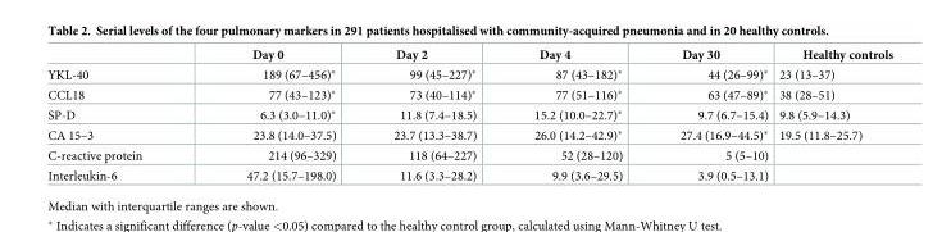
<table><thead><tr><td></td><td>Day 0</td><td>Day 2</td><td>Day 4</td><td>Day 30</td><td>Healthy controls</td></tr></thead><tbody><tr><td>YKL-40</td><td>189 (67–456)*</td><td>99 (45–227)*</td><td>87 (43–182)*</td><td>44 (26–99)*</td><td>23 (13–37)</td></tr><tr><td>CCL18</td><td>77 (43–123)*</td><td>73 (40–114)*</td><td>77 (51–116)*</td><td>63 (47–89)*</td><td>38 (28–51)</td></tr><tr><td>SP-D</td><td>6.3 (3.0–11.0)*</td><td>11.8 (7.4–18.5)</td><td>15.2 (10.0–22.7)*</td><td>9.7 (6.7–15.4)</td><td>9.8 (5.9–14.3)</td></tr><tr><td>CA 15–3</td><td>23.8 (14.0–37.5)</td><td>23.7 (13.3–38.7)</td><td>26.0 (14.2–42.9)*</td><td>27.4 (16.9–44.5)*</td><td>19.5 (11.8–25.7)</td></tr><tr><td>C-reactive protein</td><td>214 (96–329)</td><td>118 (64–227)</td><td>52 (28–120)</td><td>5 (5–10)</td><td></td></tr><tr><td>Interleukin-6</td><td>47.2 (15.7–198.0)</td><td>11.6 (3.3–28.2)</td><td>9.9 (3.6–29.5)</td><td>3.9 (0.5–13.1)</td><td></td></tr></tbody></table>